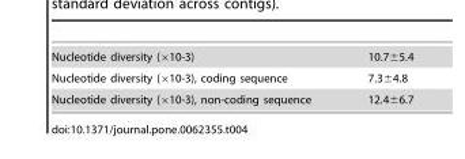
<table><tbody><tr><td>Nucleotide diversity (×10-3)</td><td>10.7±5.4</td></tr><tr><td>Nucleotide diversity (×10-3), coding sequence</td><td>7.3±4.8</td></tr><tr><td>Nucleotide diversity (×10-3), non-coding sequence</td><td>12.4±6.7</td></tr></tbody></table>